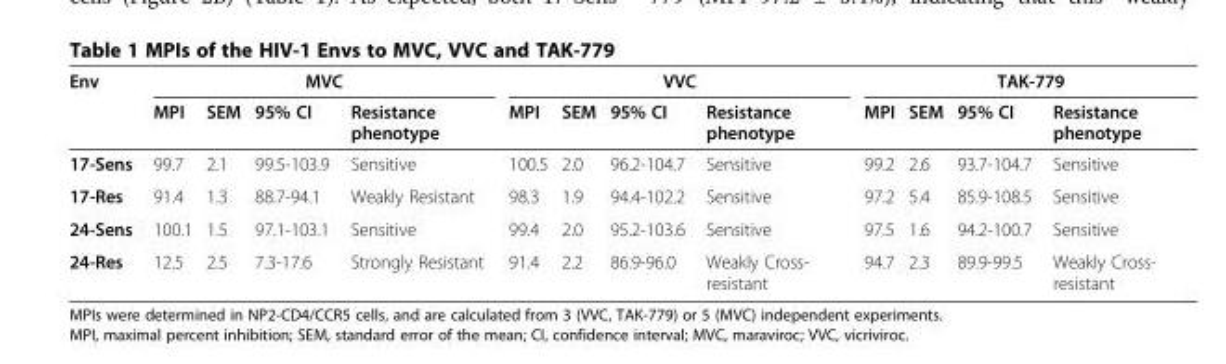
<table><thead><tr><td rowspan="2">Env</td><td colspan="4">MVC</td><td colspan="4">VVC</td><td colspan="4">TAK-779</td></tr><tr><td>MPI</td><td>SEM</td><td>95% CI</td><td>Resistance phenotype</td><td>MPI</td><td>SEM</td><td>95% CI</td><td>Resistance phenotype</td><td>MPI</td><td>SEM</td><td>95% CI</td><td>Resistance phenotype</td></tr></thead><tbody><tr><td>17-Sens</td><td>99.7</td><td>2.1</td><td>99.5-103.9</td><td>Sensitive</td><td>100.5</td><td>2.0</td><td>96.2-104.7</td><td>Sensitive</td><td>99.2</td><td>2.6</td><td>93.7-104.7</td><td>Sensitive</td></tr><tr><td>17-Res</td><td>91.4</td><td>1.3</td><td>88.7-94.1</td><td>Weakly Resistant</td><td>98.3</td><td>1.9</td><td>94.4-102.2</td><td>Sensitive</td><td>97.2</td><td>5.4</td><td>85.9-108.5</td><td>Sensitive</td></tr><tr><td>24-Sens</td><td>100.1</td><td>1.5</td><td>97.1-103.1</td><td>Sensitive</td><td>99.4</td><td>2.0</td><td>95.2-103.6</td><td>Sensitive</td><td>97.5</td><td>1.6</td><td>94.2-100.7</td><td>Sensitive</td></tr><tr><td>24-Res</td><td>12.5</td><td>2.5</td><td>7.3-17.6</td><td>Strongly Resistant</td><td>91.4</td><td>2.2</td><td>86.9-96.0</td><td>Weakly Cross- resistant</td><td>94.7</td><td>2.3</td><td>89.9-99.5</td><td>Weakly Cross- resistant</td></tr></tbody></table>